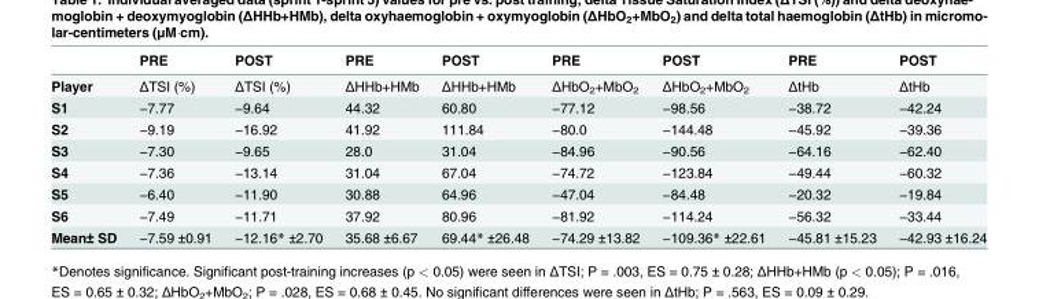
<table><thead><tr><td></td><td>PRE</td><td>POST</td><td>PRE</td><td>POST</td><td>PRE</td><td>POST</td><td>PRE</td><td>POST</td></tr></thead><tbody><tr><td>Player</td><td>ΔTSI (%)</td><td>ΔTSI (%)</td><td>ΔHHb+HMb</td><td>ΔHHb+HMb</td><td>ΔHbO<sub>2</sub>+MbO<sub>2</sub></td><td>ΔHbO<sub>2</sub>+MbO<sub>2</sub></td><td>ΔtHb</td><td>ΔtHb</td></tr><tr><td>S1</td><td>−7.77</td><td>−9.64</td><td>44.32</td><td>60.80</td><td>−77.12</td><td>−98.56</td><td>−38.72</td><td>−42.24</td></tr><tr><td>S2</td><td>−9.19</td><td>−16.92</td><td>41.92</td><td>111.84</td><td>−80.0</td><td>−144.48</td><td>−45.92</td><td>−39.36</td></tr><tr><td>S3</td><td>−7.30</td><td>−9.65</td><td>28.0</td><td>31.04</td><td>−84.96</td><td>−90.56</td><td>−64.16</td><td>−62.40</td></tr><tr><td>S4</td><td>−7.36</td><td>−13.14</td><td>31.04</td><td>67.04</td><td>−74.72</td><td>−123.84</td><td>−49.44</td><td>−60.32</td></tr><tr><td>S5</td><td>−6.40</td><td>−11.90</td><td>30.88</td><td>64.96</td><td>−47.04</td><td>−84.48</td><td>−20.32</td><td>−19.84</td></tr><tr><td>S6</td><td>−7.49</td><td>−11.71</td><td>37.92</td><td>80.96</td><td>−81.92</td><td>−114.24</td><td>−56.32</td><td>−33.44</td></tr><tr><td>Mean± SD</td><td>−7.59 ±0.91</td><td>−12.16* ±2.70</td><td>35.68 ±6.67</td><td>69.44* ±26.48</td><td>−74.29 ±13.82</td><td>−109.36* ±22.61</td><td>−45.81 ±15.23</td><td>−42.93 ±16.24</td></tr></tbody></table>